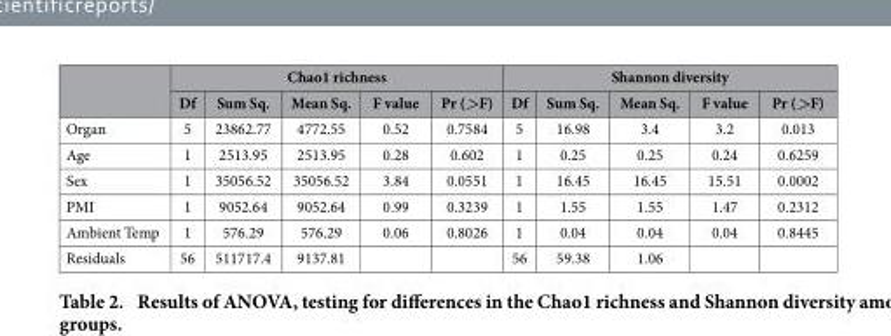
<table><thead><tr><td rowspan="2"></td><td colspan="5">Chao1 richness</td><td colspan="5">Shannon diversity</td></tr><tr><td>Df</td><td>Sum Sq.</td><td>Mean Sq.</td><td>F value</td><td>Pr (&gt;F)</td><td>Df</td><td>Sum Sq.</td><td>Mean Sq.</td><td>F value</td><td>Pr (&gt;F)</td></tr></thead><tbody><tr><td>Organ</td><td>5</td><td>23862.77</td><td>4772.55</td><td>0.52</td><td>0.7584</td><td>5</td><td>16.98</td><td>3.4</td><td>3.2</td><td>0.013</td></tr><tr><td>Age</td><td>1</td><td>2513.95</td><td>2513.95</td><td>0.28</td><td>0.602</td><td>1</td><td>0.25</td><td>0.25</td><td>0.24</td><td>0.6259</td></tr><tr><td>Sex</td><td>1</td><td>35056.52</td><td>35056.52</td><td>3.84</td><td>0.0551</td><td>1</td><td>16.45</td><td>16.45</td><td>15.51</td><td>0.0002</td></tr><tr><td>PMI</td><td>1</td><td>9052.64</td><td>9052.64</td><td>0.99</td><td>0.3239</td><td>1</td><td>1.55</td><td>1.55</td><td>1.47</td><td>0.2312</td></tr><tr><td>Ambient Temp</td><td>1</td><td>576.29</td><td>576.29</td><td>0.06</td><td>0.8026</td><td>1</td><td>0.04</td><td>0.04</td><td>0.04</td><td>0.8445</td></tr><tr><td>Residuals</td><td>56</td><td>511717.4</td><td>9137.81</td><td></td><td></td><td>56</td><td>59.38</td><td>1.06</td><td></td><td></td></tr></tbody></table>